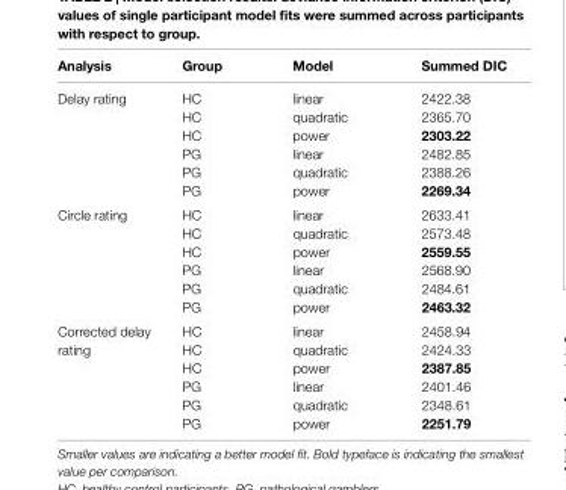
<table><thead><tr><td>analysis</td><td>group</td><td>Model</td><td>summed Dic</td></tr></thead><tbody><tr><td rowspan="6">Delay rating</td><td>HC</td><td>linear</td><td>2422.38</td></tr><tr><td>HC</td><td>quadratic</td><td>2365.70</td></tr><tr><td>HC</td><td>power</td><td>2303.22</td></tr><tr><td>PG</td><td>linear</td><td>2482.85</td></tr><tr><td>PG</td><td>quadratic</td><td>2388.26</td></tr><tr><td>PG</td><td>power</td><td>2269.34</td></tr><tr><td rowspan="6">Circle rating</td><td>HC</td><td>linear</td><td>2633.41</td></tr><tr><td>HC</td><td>quadratic</td><td>2573.48</td></tr><tr><td>HC</td><td>power</td><td>2559.55</td></tr><tr><td>PG</td><td>linear</td><td>2568.90</td></tr><tr><td>PG</td><td>quadratic</td><td>2484.61</td></tr><tr><td>PG</td><td>power</td><td>2463.32</td></tr><tr><td rowspan="6">Corrected delay rating</td><td>HC</td><td>linear</td><td>2458.94</td></tr><tr><td>HC</td><td>quadratic</td><td>2424.33</td></tr><tr><td>HC</td><td>power</td><td>2387.85</td></tr><tr><td>PG</td><td>linear</td><td>2401.46</td></tr><tr><td>PG</td><td>quadratic</td><td>2348.61</td></tr><tr><td>PG</td><td>power</td><td>2251.79</td></tr></tbody></table>